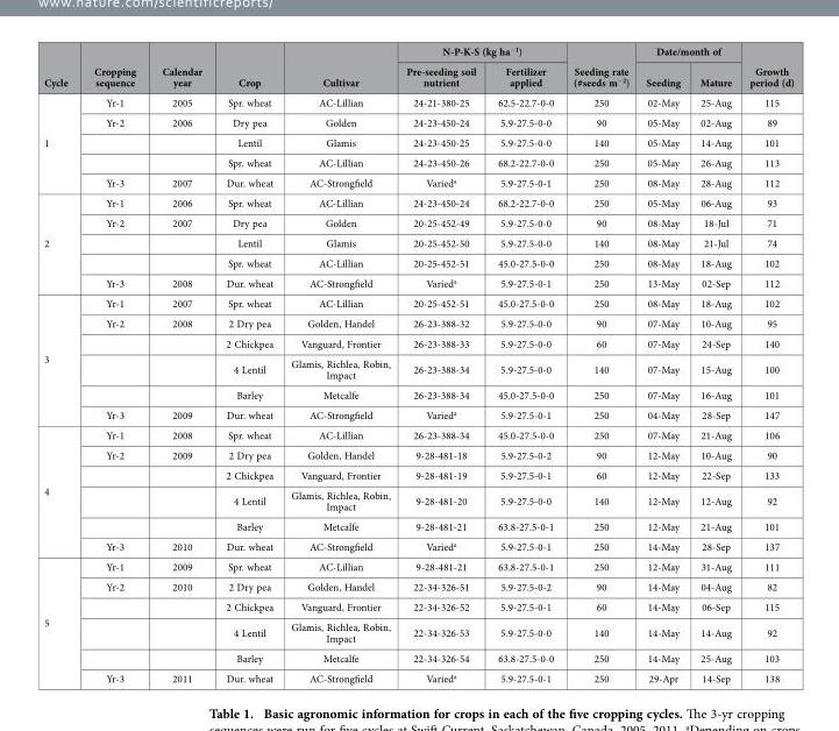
<table><thead><tr><td rowspan="2">Cycle</td><td rowspan="2">Cropping sequence</td><td rowspan="2">Calendar year</td><td rowspan="2">Crop</td><td rowspan="2">Cultivar</td><td colspan="2">N-P-K-S (kg ha<sup>−1</sup>)</td><td rowspan="2">Seeding rate (#seeds m<sup>−2</sup>)</td><td colspan="2">Date/month of</td><td rowspan="2">Growth period (d)</td></tr><tr><td>Pre-seeding soil nutrient</td><td>Fertilizer applied</td><td>Seeding</td><td>Mature</td></tr></thead><tbody><tr><td rowspan="5">1</td><td>Yr-1</td><td>2005</td><td>Spr. wheat</td><td>AC-Lillian</td><td>24-21-380-25</td><td>62.5-22.7-0-0</td><td>250</td><td>02-May</td><td>25-Aug</td><td>115</td></tr><tr><td>Yr-2</td><td>2006</td><td>Dry pea</td><td>Golden</td><td>24-23-450-24</td><td>5.9-27.5-0-0</td><td>90</td><td>05-May</td><td>02-Aug</td><td>89</td></tr><tr><td></td><td></td><td>Lentil</td><td>Glamis</td><td>24-23-450-25</td><td>5.9-27.5-0-0</td><td>140</td><td>05-May</td><td>14-Aug</td><td>101</td></tr><tr><td></td><td></td><td>Spr. wheat</td><td>AC-Lillian</td><td>24-23-450-26</td><td>68.2-22.7-0-0</td><td>250</td><td>05-May</td><td>26-Aug</td><td>113</td></tr><tr><td>Yr-3</td><td>2007</td><td>Dur. wheat</td><td>AC-Strongfield</td><td>Varied<sup>a</sup></td><td>5.9-27.5-0-1</td><td>250</td><td>08-May</td><td>28-Aug</td><td>112</td></tr><tr><td rowspan="5">2</td><td>Yr-1</td><td>2006</td><td>Spr. wheat</td><td>AC-Lillian</td><td>24-23-450-24</td><td>68.2-22.7-0-0</td><td>250</td><td>05-May</td><td>06-Aug</td><td>93</td></tr><tr><td>Yr-2</td><td>2007</td><td>Dry pea</td><td>Golden</td><td>20-25-452-49</td><td>5.9-27.5-0-0</td><td>90</td><td>08-May</td><td>18-Jul</td><td>71</td></tr><tr><td></td><td></td><td>Lentil</td><td>Glamis</td><td>20-25-452-50</td><td>5.9-27.5-0-0</td><td>140</td><td>08-May</td><td>21-Jul</td><td>74</td></tr><tr><td></td><td></td><td>Spr. wheat</td><td>AC-Lillian</td><td>20-25-452-51</td><td>45.0-27.5-0-0</td><td>250</td><td>08-May</td><td>18-Aug</td><td>102</td></tr><tr><td>Yr-3</td><td>2008</td><td>Dur. wheat</td><td>AC-Strongfield</td><td>Varied<sup>a</sup></td><td>5.9-27.5-0-1</td><td>250</td><td>13-May</td><td>02-Sep</td><td>112</td></tr><tr><td rowspan="6">3</td><td>Yr-1</td><td>2007</td><td>Spr. wheat</td><td>AC-Lillian</td><td>20-25-452-51</td><td>45.0-27.5-0-0</td><td>250</td><td>08-May</td><td>18-Aug</td><td>102</td></tr><tr><td>Yr-2</td><td>2008</td><td>2 Dry pea</td><td>Golden, Handel</td><td>26-23-388-32</td><td>5.9-27.5-0-0</td><td>90</td><td>07-May</td><td>10-Aug</td><td>95</td></tr><tr><td></td><td></td><td>2 Chickpea</td><td>Vanguard, Frontier</td><td>26-23-388-33</td><td>5.9-27.5-0-0</td><td>60</td><td>07-May</td><td>24-Sep</td><td>140</td></tr><tr><td></td><td></td><td>4 Lentil</td><td>Glamis, Richlea, Robin, Impact</td><td>26-23-388-34</td><td>5.9-27.5-0-0</td><td>140</td><td>07-May</td><td>15-Aug</td><td>100</td></tr><tr><td></td><td></td><td>Barley</td><td>Metcalfe</td><td>26-23-388-34</td><td>45.0-27.5-0-0</td><td>250</td><td>07-May</td><td>16-Aug</td><td>101</td></tr><tr><td>Yr-3</td><td>2009</td><td>Dur. wheat</td><td>AC-Strongfield</td><td>Varied<sup>a</sup></td><td>5.9-27.5-0-1</td><td>250</td><td>04-May</td><td>28-Sep</td><td>147</td></tr><tr><td rowspan="6">4</td><td>Yr-1</td><td>2008</td><td>Spr. wheat</td><td>AC-Lillian</td><td>26-23-388-34</td><td>45.0-27.5-0-0</td><td>250</td><td>07-May</td><td>21-Aug</td><td>106</td></tr><tr><td>Yr-2</td><td>2009</td><td>2 Dry pea</td><td>Golden, Handel</td><td>9-28-481-18</td><td>5.9-27.5-0-2</td><td>90</td><td>12-May</td><td>10-Aug</td><td>90</td></tr><tr><td></td><td></td><td>2 Chickpea</td><td>Vanguard, Frontier</td><td>9-28-481-19</td><td>5.9-27.5-0-1</td><td>60</td><td>12-May</td><td>22-Sep</td><td>133</td></tr><tr><td></td><td></td><td>4 Lentil</td><td>Glamis, Richlea, Robin, Impact</td><td>9-28-481-20</td><td>5.9-27.5-0-0</td><td>140</td><td>12-May</td><td>12-Aug</td><td>92</td></tr><tr><td></td><td></td><td>Barley</td><td>Metcalfe</td><td>9-28-481-21</td><td>63.8-27.5-0-1</td><td>250</td><td>12-May</td><td>21-Aug</td><td>101</td></tr><tr><td>Yr-3</td><td>2010</td><td>Dur. wheat</td><td>AC-Strongfield</td><td>Varied<sup>a</sup></td><td>5.9-27.5-0-1</td><td>250</td><td>14-May</td><td>28-Sep</td><td>137</td></tr><tr><td rowspan="6">5</td><td>Yr-1</td><td>2009</td><td>Spr. wheat</td><td>AC-Lillian</td><td>9-28-481-21</td><td>63.8-27.5-0-1</td><td>250</td><td>12-May</td><td>31-Aug</td><td>111</td></tr><tr><td>Yr-2</td><td>2010</td><td>2 Dry pea</td><td>Golden, Handel</td><td>22-34-326-51</td><td>5.9-27.5-0-2</td><td>90</td><td>14-May</td><td>04-Aug</td><td>82</td></tr><tr><td></td><td></td><td>2 Chickpea</td><td>Vanguard, Frontier</td><td>22-34-326-52</td><td>5.9-27.5-0-1</td><td>60</td><td>14-May</td><td>06-Sep</td><td>115</td></tr><tr><td></td><td></td><td>4 Lentil</td><td>Glamis, Richlea, Robin, Impact</td><td>22-34-326-53</td><td>5.9-27.5-0-0</td><td>140</td><td>14-May</td><td>14-Aug</td><td>92</td></tr><tr><td></td><td></td><td>Barley</td><td>Metcalfe</td><td>22-34-326-54</td><td>63.8-27.5-0-0</td><td>250</td><td>14-May</td><td>25-Aug</td><td>103</td></tr><tr><td>Yr-3</td><td>2011</td><td>Dur. wheat</td><td>AC-Strongfield</td><td>Varied<sup>a</sup></td><td>5.9-27.5-0-1</td><td>250</td><td>29-Apr</td><td>14-Sep</td><td>138</td></tr></tbody></table>